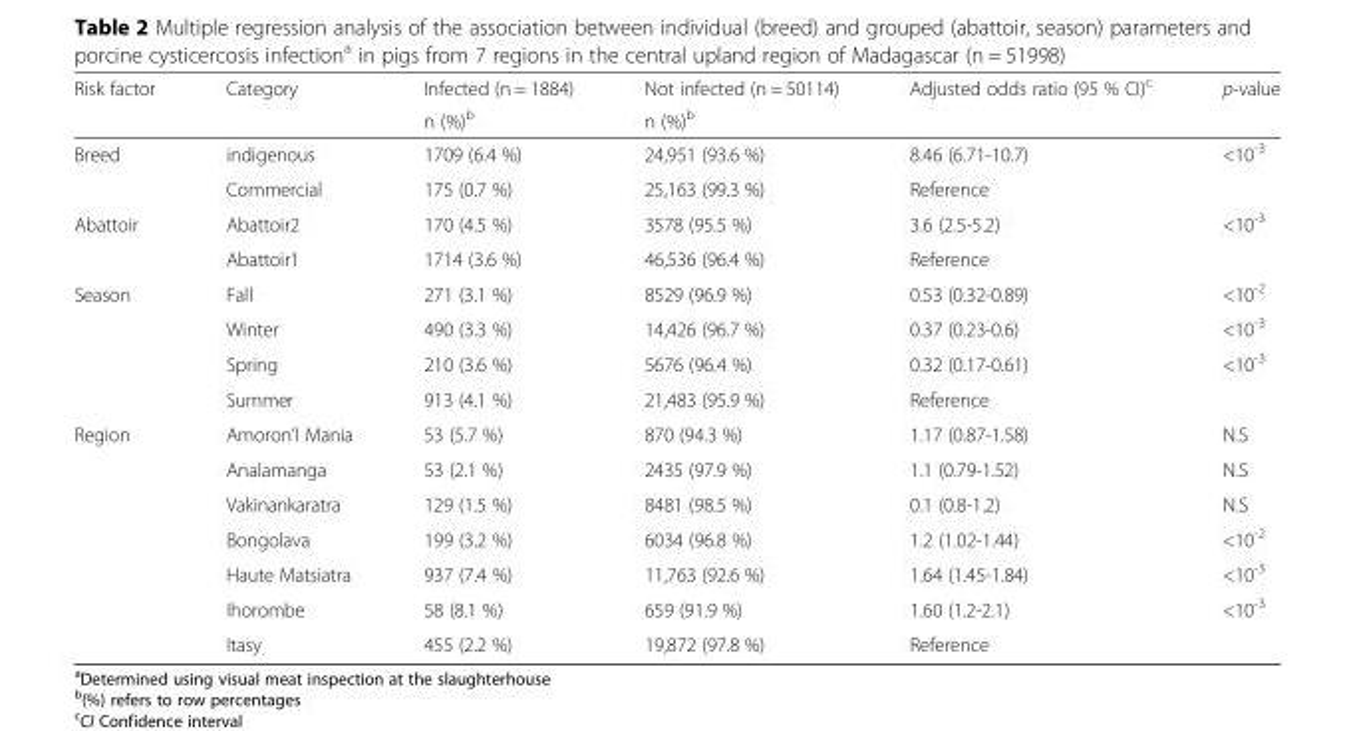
<table><thead><tr><td rowspan="2">Risk factor</td><td rowspan="2">Category</td><td rowspan="2">Infected (n = 1884) n (%)<sup>b</sup></td><td rowspan="2">Not infected (n = 50114) n (%)<sup>b</sup></td><td rowspan="2">Adjusted odds ratio (95 % CI)<sup>c</sup></td><td rowspan="2">p-value</td></tr><tr></tr></thead><tbody><tr><td rowspan="2">Breed</td><td>indigenous</td><td>1709 (6.4 %)</td><td>24,951 (93.6 %)</td><td>8.46 (6.71-10.7)</td><td>&lt;10<sup>-3</sup></td></tr><tr><td>Commercial</td><td>175 (0.7 %)</td><td>25,163 (99.3 %)</td><td>Reference</td><td></td></tr><tr><td rowspan="2">Abattoir</td><td>Abattoir2</td><td>170 (4.5 %)</td><td>3578 (95.5 %)</td><td>3.6 (2.5-5.2)</td><td>&lt;10<sup>-3</sup></td></tr><tr><td>Abattoir1</td><td>1714 (3.6 %)</td><td>46,536 (96.4 %)</td><td>Reference</td><td></td></tr><tr><td rowspan="4">Season</td><td>Fall</td><td>271 (3.1 %)</td><td>8529 (96.9 %)</td><td>0.53 (0.32-0.89)</td><td>&lt;10<sup>-2</sup></td></tr><tr><td>Winter</td><td>490 (3.3 %)</td><td>14,426 (96.7 %)</td><td>0.37 (0.23-0.6)</td><td>&lt;10<sup>-3</sup></td></tr><tr><td>Spring</td><td>210 (3.6 %)</td><td>5676 (96.4 %)</td><td>0.32 (0.17-0.61)</td><td>&lt;10<sup>-3</sup></td></tr><tr><td>Summer</td><td>913 (4.1 %)</td><td>21,483 (95.9 %)</td><td>Reference</td><td></td></tr><tr><td rowspan="7">Region</td><td>Amoron’I Mania</td><td>53 (5.7 %)</td><td>870 (94.3 %)</td><td>1.17 (0.87-1.58)</td><td>N.S</td></tr><tr><td>Analamanga</td><td>53 (2.1 %)</td><td>2435 (97.9 %)</td><td>1.1 (0.79-1.52)</td><td>N.S</td></tr><tr><td>Vakinankaratra</td><td>129 (1.5 %)</td><td>8481 (98.5 %)</td><td>0.1 (0.8-1.2)</td><td>N.S</td></tr><tr><td>Bongolava</td><td>199 (3.2 %)</td><td>6034 (96.8 %)</td><td>1.2 (1.02-1.44)</td><td>&lt;10<sup>-2</sup></td></tr><tr><td>Haute Matsiatra</td><td>937 (7.4 %)</td><td>11,763 (92.6 %)</td><td>1.64 (1.45-1.84)</td><td>&lt;10<sup>-3</sup></td></tr><tr><td>Ihorombe</td><td>58 (8.1 %)</td><td>659 (91.9 %)</td><td>1.60 (1.2-2.1)</td><td>&lt;10<sup>-3</sup></td></tr><tr><td>Itasy</td><td>455 (2.2 %)</td><td>19,872 (97.8 %)</td><td>Reference</td><td></td></tr></tbody></table>